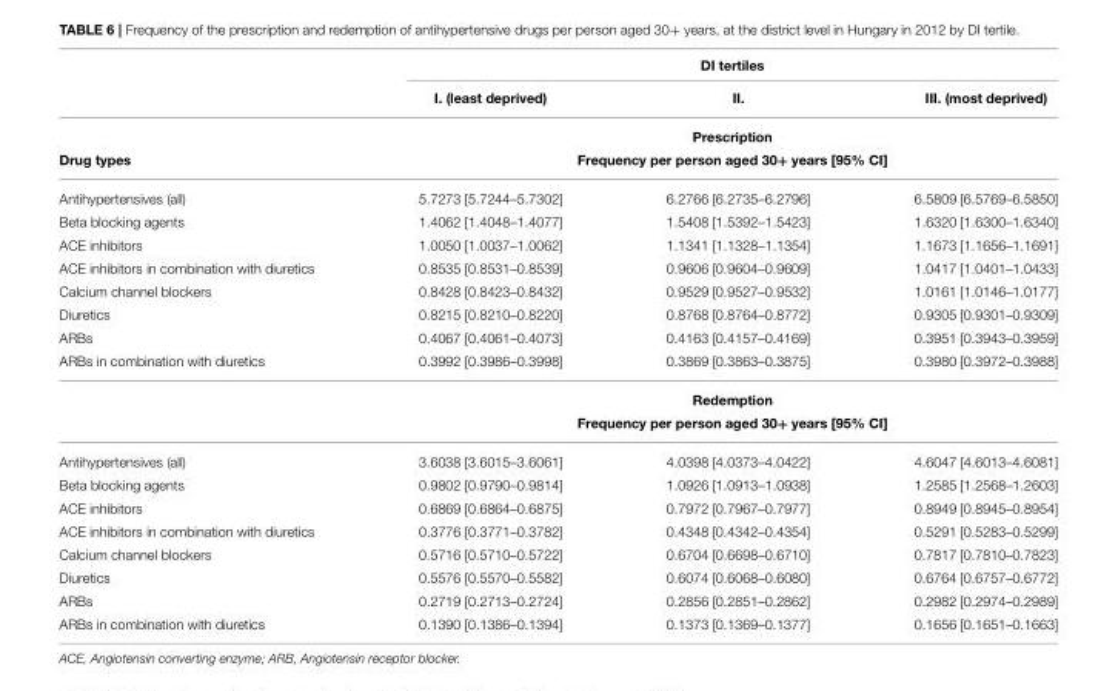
<table><thead><tr><td rowspan="2"></td><td colspan="3">DI tertiles</td></tr><tr><td>I. (least deprived)</td><td>II.</td><td>III. (most deprived)</td></tr></thead><tbody><tr><td></td><td colspan="3">Prescription</td></tr><tr><td>Drug types</td><td colspan="3">Frequency per person aged 30+ years [95% CI]</td></tr><tr><td>Antihypertensives (all)</td><td>5.7273 [5.7244–5.7302]</td><td>6.2766 [6.2735–6.2796]</td><td>6.5809 [6.5769–6.5850]</td></tr><tr><td>Beta blocking agents</td><td>1.4062 [1.4048–1.4077]</td><td>1.5408 [1.5392–1.5423]</td><td>1.6320 [1.6300–1.6340]</td></tr><tr><td>ACE inhibitors</td><td>1.0050 [1.0037–1.0062]</td><td>1.1341 [1.1328–1.1354]</td><td>1.1673 [1.1656–1.1691]</td></tr><tr><td>ACE inhibitors in combination with diuretics</td><td>0.8535 [0.8531–0.8539]</td><td>0.9606 [0.9604–0.9609]</td><td>1.0417 [1.0401–1.0433]</td></tr><tr><td>Calcium channel blockers</td><td>0.8428 [0.8423–0.8432]</td><td>0.9529 [0.9527–0.9532]</td><td>1.0161 [1.0146–1.0177]</td></tr><tr><td>Diuretics</td><td>0.8215 [0.8210–0.8220]</td><td>0.8768 [0.8764–0.8772]</td><td>0.9305 [0.9301–0.9309]</td></tr><tr><td>ARBs</td><td>0.4067 [0.4061–0.4073]</td><td>0.4163 [0.4157–0.4169]</td><td>0.3951 [0.3943–0.3959]</td></tr><tr><td rowspan="3">ARBs in combination with diuretics</td><td>0.3992 [0.3986–0.3998]</td><td>0.3869 [0.3863–0.3875]</td><td>0.3980 [0.3972–0.3988]</td></tr><tr><td colspan="3">Redemption</td></tr><tr><td colspan="3">Frequency per person aged 30+ years [95% CI]</td></tr><tr><td>Antihypertensives (all)</td><td>3.6038 [3.6015–3.6061]</td><td>4.0398 [4.0373–4.0422]</td><td>4.6047 [4.6013–4.6081]</td></tr><tr><td>Beta blocking agents</td><td>0.9802 [0.9790–0.9814]</td><td>1.0926 [1.0913–1.0938]</td><td>1.2585 [1.2568–1.2603]</td></tr><tr><td>ACE inhibitors</td><td>0.6869 [0.6864–0.6875]</td><td>0.7972 [0.7967–0.7977]</td><td>0.8949 [0.8945–0.8954]</td></tr><tr><td>ACE inhibitors in combination with diuretics</td><td>0.3776 [0.3771–0.3782]</td><td>0.4348 [0.4342–0.4354]</td><td>0.5291 [0.5283–0.5299]</td></tr><tr><td>Calcium channel blockers</td><td>0.5716 [0.5710–0.5722]</td><td>0.6704 [0.6698–0.6710]</td><td>0.7817 [0.7810–0.7823]</td></tr><tr><td>Diuretics</td><td>0.5576 [0.5570–0.5582]</td><td>0.6074 [0.6068–0.6080]</td><td>0.6764 [0.6757–0.6772]</td></tr><tr><td>ARBs</td><td>0.2719 [0.2713–0.2724]</td><td>0.2856 [0.2851–0.2862]</td><td>0.2982 [0.2974–0.2989]</td></tr><tr><td>ARBs in combination with diuretics</td><td>0.1390 [0.1386–0.1394]</td><td>0.1373 [0.1369–0.1377]</td><td>0.1656 [0.1651–0.1663]</td></tr></tbody></table>